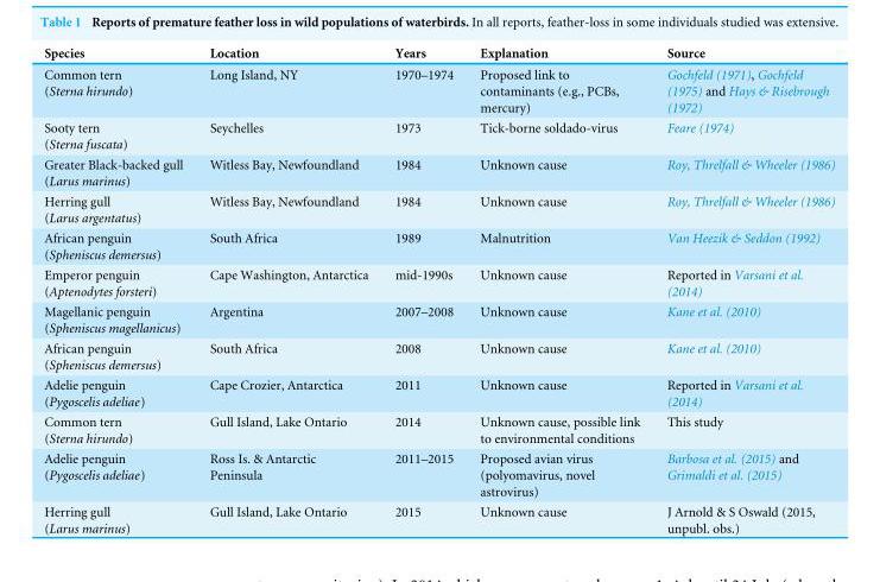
<table><thead><tr><td>Species</td><td>Location</td><td>Years</td><td>Explanation</td><td>Source</td></tr></thead><tbody><tr><td>Common tern (Sterna hirundo)</td><td>Long Island, NY</td><td>1970–1974</td><td>Proposed link to contaminants (e.g., PCBs, mercury)</td><td>Gochfeld (1971), Gochfeld (1975) and Hays &amp; Risebrough (1972)</td></tr><tr><td>Sooty tern (Sterna fuscata)</td><td>Seychelles</td><td>1973</td><td>Tick-borne soldado-virus</td><td>Feare (1974)</td></tr><tr><td>Greater Black-backed gull (Larus marinus)</td><td>Witless Bay, Newfoundland</td><td>1984</td><td>Unknown cause</td><td>Roy, Threlfall &amp; Wheeler (1986)</td></tr><tr><td>Herring gull (Larus argentatus)</td><td>Witless Bay, Newfoundland</td><td>1984</td><td>Unknown cause</td><td>Roy, Threlfall &amp; Wheeler (1986)</td></tr><tr><td>African penguin (Spheniscus demersus)</td><td>South Africa</td><td>1989</td><td>Malnutrition</td><td>Van Heezik &amp; Seddon (1992)</td></tr><tr><td>Emperor penguin (Aptenodytes forsteri)</td><td>Cape Washington, Antarctica</td><td>mid-1990s</td><td>Unknown cause</td><td>Reported in Varsani et al. (2014)</td></tr><tr><td>Magellanic penguin (Spheniscus magellanicus)</td><td>Argentina</td><td>2007–2008</td><td>Unknown cause</td><td>Kane et al. (2010)</td></tr><tr><td>African penguin (Spheniscus demersus)</td><td>South Africa</td><td>2008</td><td>Unknown cause</td><td>Kane et al. (2010)</td></tr><tr><td>Adelie penguin (Pygoscelis adeliae)</td><td>Cape Crozier, Antarctica</td><td>2011</td><td>Unknown cause</td><td>Reported in Varsani et al. (2014)</td></tr><tr><td>Common tern (Sterna hirundo)</td><td>Gull Island, Lake Ontario</td><td>2014</td><td>Unknown cause, possible link to environmental conditions</td><td>This study</td></tr><tr><td>Adelie penguin (Pygoscelis adeliae)</td><td>Ross Is. &amp; Antarctic Peninsula</td><td>2011–2015</td><td>Proposed avian virus (polyomavirus, novel astrovirus)</td><td>Barbosa et al. (2015) and Grimaldi et al. (2015)</td></tr><tr><td>Herring gull (Larus marinus)</td><td>Gull Island, Lake Ontario</td><td>2015</td><td>Unknown cause</td><td>J Arnold &amp; S Oswald (2015, unpubl. obs.)</td></tr></tbody></table>